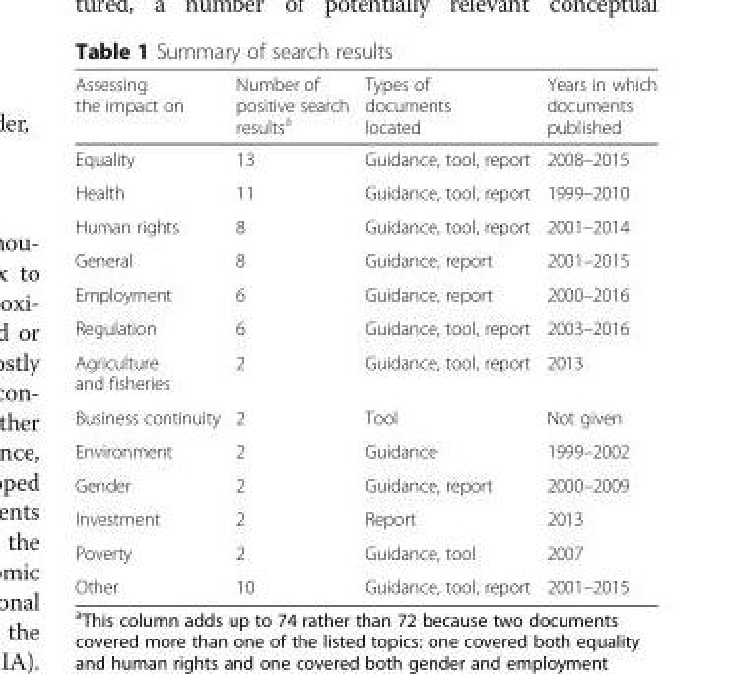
<table><thead><tr><td>Assessing the impact on</td><td>Number of positive search results<sup>a</sup></td><td>Types of documents located</td><td>Years in which documents published</td></tr></thead><tbody><tr><td>Equality</td><td>13</td><td>Guidance, tool, report</td><td>2008–2015</td></tr><tr><td>Health</td><td>11</td><td>Guidance, tool, report</td><td>1999–2010</td></tr><tr><td>Human rights</td><td>8</td><td>Guidance, tool, report</td><td>2001–2014</td></tr><tr><td>General</td><td>8</td><td>Guidance, report</td><td>2001–2015</td></tr><tr><td>Employment</td><td>6</td><td>Guidance, report</td><td>2000–2016</td></tr><tr><td>Regulation</td><td>6</td><td>Guidance, tool, report</td><td>2003–2016</td></tr><tr><td>Agriculture and fisheries</td><td>2</td><td>Guidance, tool, report</td><td>2013</td></tr><tr><td>Business continuity</td><td>2</td><td>Tool</td><td>Not given</td></tr><tr><td>Environment</td><td>2</td><td>Guidance</td><td>1999–2002</td></tr><tr><td>Gender</td><td>2</td><td>Guidance, report</td><td>2000–2009</td></tr><tr><td>Investment</td><td>2</td><td>Report</td><td>2013</td></tr><tr><td>Poverty</td><td>2</td><td>Guidance, tool</td><td>2007</td></tr><tr><td>Other</td><td>10</td><td>Guidance, tool, report</td><td>2001–2015</td></tr></tbody></table>